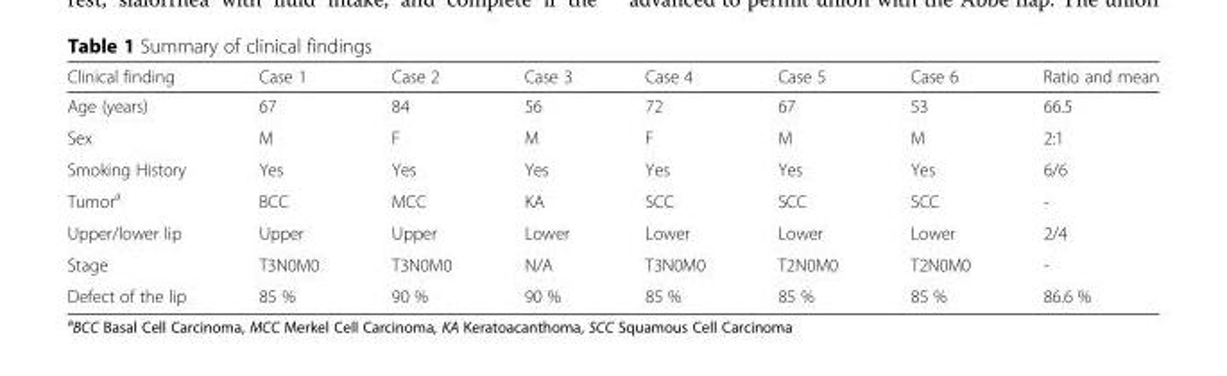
<table><thead><tr><td>Clinical finding</td><td>Case 1</td><td>Case 2</td><td>Case 3</td><td>Case 4</td><td>Case 5</td><td>Case 6</td><td>Ratio and mean</td></tr></thead><tbody><tr><td>Age (years)</td><td>67</td><td>84</td><td>56</td><td>72</td><td>67</td><td>53</td><td>66.5</td></tr><tr><td>Sex</td><td>M</td><td>F</td><td>M</td><td>F</td><td>M</td><td>M</td><td>2:1</td></tr><tr><td>Smoking History</td><td>Yes</td><td>Yes</td><td>Yes</td><td>Yes</td><td>Yes</td><td>Yes</td><td>6/6</td></tr><tr><td>Tumor<sup>a</sup></td><td>BCC</td><td>MCC</td><td>KA</td><td>SCC</td><td>SCC</td><td>SCC</td><td>-</td></tr><tr><td>Upper/lower lip</td><td>Upper</td><td>Upper</td><td>Lower</td><td>Lower</td><td>Lower</td><td>Lower</td><td>2/4</td></tr><tr><td>Stage</td><td>T3N0M0</td><td>T3N0M0</td><td>N/A</td><td>T3N0M0</td><td>T2N0M0</td><td>T2N0M0</td><td>-</td></tr><tr><td>Defect of the lip</td><td>85 %</td><td>90 %</td><td>90 %</td><td>85 %</td><td>85 %</td><td>85 %</td><td>86.6 %</td></tr></tbody></table>